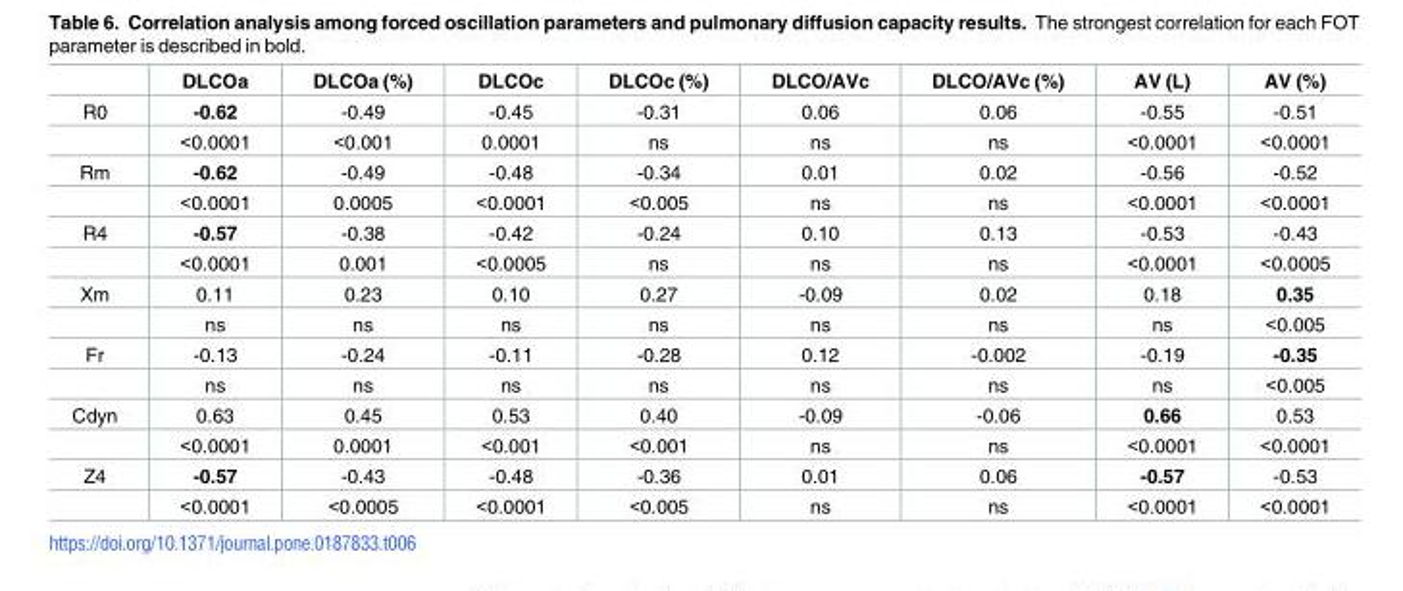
<table><thead><tr><td></td><td>DLCOa</td><td>DLCOa (%)</td><td>DLCOc</td><td>DLCOc (%)</td><td>DLCO/AVc</td><td>DLCO/AVc (%)</td><td>AV (L)</td><td>AV (%)</td></tr></thead><tbody><tr><td rowspan="2">R0</td><td>-0.62</td><td>-0.49</td><td>-0.45</td><td>-0.31</td><td>0.06</td><td>0.06</td><td>-0.55</td><td>-0.51</td></tr><tr><td>&lt;0.0001</td><td>&lt;0.001</td><td>0.0001</td><td>ns</td><td>ns</td><td>ns</td><td>&lt;0.0001</td><td>&lt;0.0001</td></tr><tr><td rowspan="2">Rm</td><td>-0.62</td><td>-0.49</td><td>-0.48</td><td>-0.34</td><td>0.01</td><td>0.02</td><td>-0.56</td><td>-0.52</td></tr><tr><td>&lt;0.0001</td><td>0.0005</td><td>&lt;0.0001</td><td>&lt;0.005</td><td>ns</td><td>ns</td><td>&lt;0.0001</td><td>&lt;0.0001</td></tr><tr><td rowspan="2">R4</td><td>-0.57</td><td>-0.38</td><td>-0.42</td><td>-0.24</td><td>0.10</td><td>0.13</td><td>-0.53</td><td>-0.43</td></tr><tr><td>&lt;0.0001</td><td>0.001</td><td>&lt;0.0005</td><td>ns</td><td>ns</td><td>ns</td><td>&lt;0.0001</td><td>&lt;0.0005</td></tr><tr><td rowspan="2">Xm</td><td>0.11</td><td>0.23</td><td>0.10</td><td>0.27</td><td>-0.09</td><td>0.02</td><td>0.18</td><td>0.35</td></tr><tr><td>ns</td><td>ns</td><td>ns</td><td>ns</td><td>ns</td><td>ns</td><td>ns</td><td>&lt;0.005</td></tr><tr><td rowspan="2">Fr</td><td>-0.13</td><td>-0.24</td><td>-0.11</td><td>-0.28</td><td>0.12</td><td>-0.002</td><td>-0.19</td><td>-0.35</td></tr><tr><td>ns</td><td>ns</td><td>ns</td><td>ns</td><td>ns</td><td>ns</td><td>ns</td><td>&lt;0.005</td></tr><tr><td rowspan="2">Cdyn</td><td>0.63</td><td>0.45</td><td>0.53</td><td>0.40</td><td>-0.09</td><td>-0.06</td><td>0.66</td><td>0.53</td></tr><tr><td>&lt;0.0001</td><td>0.0001</td><td>&lt;0.001</td><td>&lt;0.001</td><td>ns</td><td>ns</td><td>&lt;0.0001</td><td>&lt;0.0001</td></tr><tr><td rowspan="2">Z4</td><td>-0.57</td><td>-0.43</td><td>-0.48</td><td>-0.36</td><td>0.01</td><td>0.06</td><td>-0.57</td><td>-0.53</td></tr><tr><td>&lt;0.0001</td><td>&lt;0.0005</td><td>&lt;0.0001</td><td>&lt;0.005</td><td>ns</td><td>ns</td><td>&lt;0.0001</td><td>&lt;0.0001</td></tr></tbody></table>